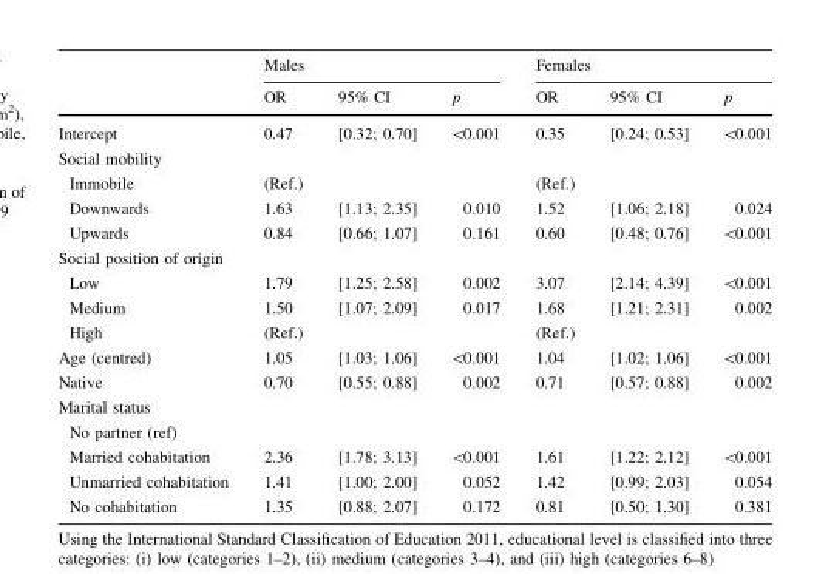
<table><thead><tr><td rowspan="2"></td><td colspan="3">Males</td><td colspan="3">Females</td></tr><tr><td>OR</td><td>95% CI</td><td>p</td><td>OR</td><td>95% CI</td><td>p</td></tr></thead><tbody><tr><td>Intercept</td><td>0.47</td><td>[0.32; 0.70]</td><td>&lt;0.001</td><td>0.35</td><td>[0.24; 0.53]</td><td>&lt;0.001</td></tr><tr><td colspan="7">Social mobility</td></tr><tr><td>Immobile</td><td>(Ref.)</td><td></td><td></td><td>(Ref.)</td><td></td><td></td></tr><tr><td>Downwards</td><td>1.63</td><td>[1.13; 2.35]</td><td>0.010</td><td>1.52</td><td>[1.06; 2.18]</td><td>0.024</td></tr><tr><td>Upwards</td><td>0.84</td><td>[0.66; 1.07]</td><td>0.161</td><td>0.60</td><td>[0.48; 0.76]</td><td>&lt;0.001</td></tr><tr><td colspan="7">Social position of origin</td></tr><tr><td>Low</td><td>1.79</td><td>[1.25; 2.58]</td><td>0.002</td><td>3.07</td><td>[2.14; 4.39]</td><td>&lt;0.001</td></tr><tr><td>Medium</td><td>1.50</td><td>[1.07; 2.09]</td><td>0.017</td><td>1.68</td><td>[1.21; 2.31]</td><td>0.002</td></tr><tr><td>High</td><td>(Ref.)</td><td></td><td></td><td>(Ref.)</td><td></td><td></td></tr><tr><td>Age (centred)</td><td>1.05</td><td>[1.03; 1.06]</td><td>&lt;0.001</td><td>1.04</td><td>[1.02; 1.06]</td><td>&lt;0.001</td></tr><tr><td>Native</td><td>0.70</td><td>[0.55; 0.88]</td><td>0.002</td><td>0.71</td><td>[0.57; 0.88]</td><td>0.002</td></tr><tr><td colspan="7">Marital status</td></tr><tr><td colspan="7">No partner (ref)</td></tr><tr><td>Married cohabitation</td><td>2.36</td><td>[1.78; 3.13]</td><td>&lt;0.001</td><td>1.61</td><td>[1.22; 2.12]</td><td>&lt;0.001</td></tr><tr><td>Unmarried cohabitation</td><td>1.41</td><td>[1.00; 2.00]</td><td>0.052</td><td>1.42</td><td>[0.99; 2.03]</td><td>0.054</td></tr><tr><td>No cohabitation</td><td>1.35</td><td>[0.88; 2.07]</td><td>0.172</td><td>0.81</td><td>[0.50; 1.30]</td><td>0.381</td></tr></tbody></table>